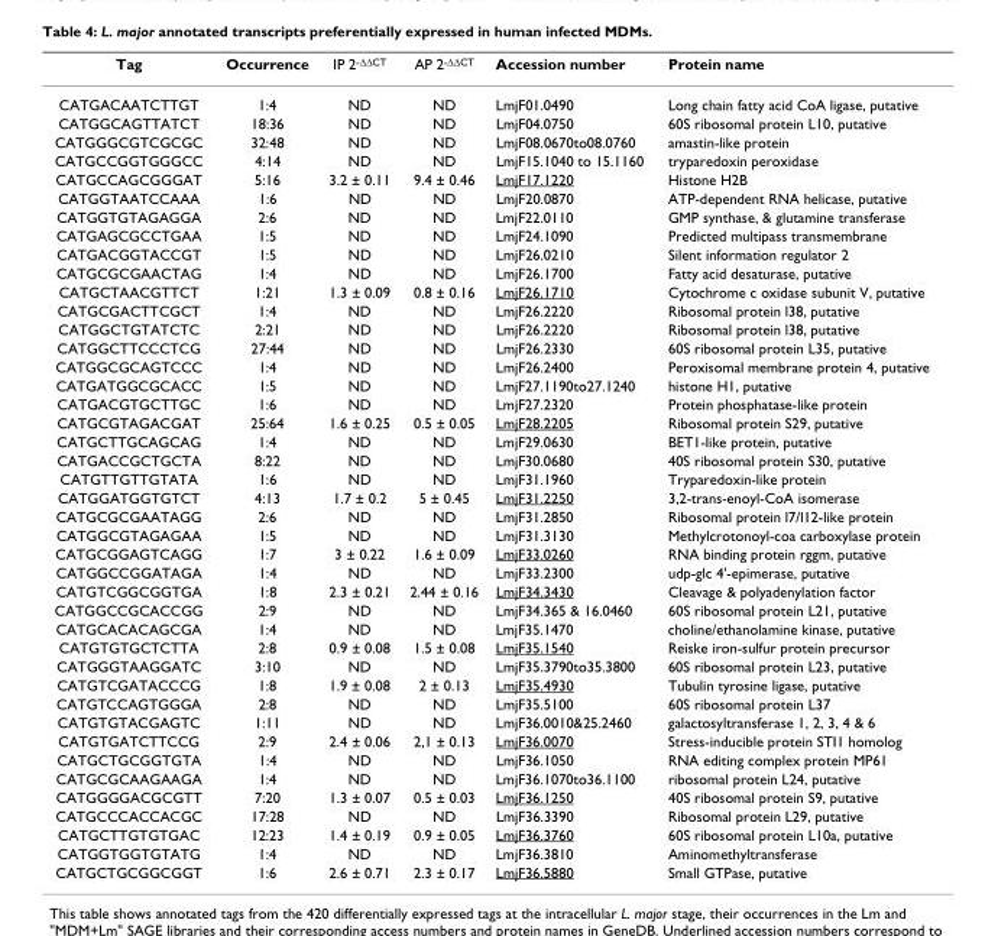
<table><thead><tr><td>Tag</td><td>Occurrence</td><td>IP 2<sup>-ΔΔCT</sup></td><td>AP 2<sup>-ΔΔCT</sup></td><td>Accession number</td><td>Protein name</td></tr></thead><tbody><tr><td>CATGACAATCTTGT</td><td>1:4</td><td>ND</td><td>ND</td><td>LmjF01.0490</td><td>Long chain fatty acid CoA ligase, putative</td></tr><tr><td>CATGGCAGTTATCT</td><td>18:36</td><td>ND</td><td>ND</td><td>LmjF04.0750</td><td>60S ribosomal protein L10, putative</td></tr><tr><td>CATGGGCGTCGCGC</td><td>32:48</td><td>ND</td><td>ND</td><td>LmjF08.0670to08.0760</td><td>amastin-like protein</td></tr><tr><td>CATGCCGGTGGGCC</td><td>4:14</td><td>ND</td><td>ND</td><td>LmjF15.1040 to 15.1160</td><td>tryparedoxin peroxidase</td></tr><tr><td>CATGCCAGCGGGAT</td><td>5:16</td><td>3.2 ± 0.11</td><td>9.4 ± 0.46</td><td>LmjF17.1220</td><td>Histone H2B</td></tr><tr><td>CATGGTAATCCAAA</td><td>1:6</td><td>ND</td><td>ND</td><td>LmjF20.0870</td><td>ATP-dependent RNA helicase, putative</td></tr><tr><td>CATGGTGTAGAGGA</td><td>2:6</td><td>ND</td><td>ND</td><td>LmjF22.0110</td><td>GMP synthase, &amp; glutamine transferase</td></tr><tr><td>CATGAGCGCCTGAA</td><td>1:5</td><td>ND</td><td>ND</td><td>LmjF24.1090</td><td>Predicted multipass transmembrane</td></tr><tr><td>CATGACGGTACCGT</td><td>1:5</td><td>ND</td><td>ND</td><td>LmjF26.0210</td><td>Silent information regulator 2</td></tr><tr><td>CATGCGCGAACTAG</td><td>1:4</td><td>ND</td><td>ND</td><td>LmjF26.1700</td><td>Fatty acid desaturase, putative</td></tr><tr><td>CATGCTAACGTTCT</td><td>1:21</td><td>1.3 ± 0.09</td><td>0.8 ± 0.16</td><td>LmjF26.1710</td><td>Cytochrome c oxidase subunit V, putative</td></tr><tr><td>CATGCGACTTCGCT</td><td>1:4</td><td>ND</td><td>ND</td><td>LmjF26.2220</td><td>Ribosomal protein l38, putative</td></tr><tr><td>CATGGCTGTATCTC</td><td>2:21</td><td>ND</td><td>ND</td><td>LmjF26.2220</td><td>Ribosomal protein l38, putative</td></tr><tr><td>CATGGCTTCCCTCG</td><td>27:44</td><td>ND</td><td>ND</td><td>LmjF26.2330</td><td>60S ribosomal protein L35, putative</td></tr><tr><td>CATGGCGCAGTCCC</td><td>1:4</td><td>ND</td><td>ND</td><td>LmjF26.2400</td><td>Peroxisomal membrane protein 4, putative</td></tr><tr><td>CATGATGGCGCACC</td><td>1:5</td><td>ND</td><td>ND</td><td>LmjF27.1190to27.1240</td><td>histone H1, putative</td></tr><tr><td>CATGACGTGCTTGC</td><td>1:6</td><td>ND</td><td>ND</td><td>LmjF27.2320</td><td>Protein phosphatase-like protein</td></tr><tr><td>CATGCGTAGACGAT</td><td>25:64</td><td>1.6 ± 0.25</td><td>0.5 ± 0.05</td><td>LmjF28.2205</td><td>Ribosomal protein S29, putative</td></tr><tr><td>CATGCTTGCAGCAG</td><td>1:4</td><td>ND</td><td>ND</td><td>LmjF29.0630</td><td>BET1-like protein, putative</td></tr><tr><td>CATGACCGCTGCTA</td><td>8:22</td><td>ND</td><td>ND</td><td>LmjF30.0680</td><td>40S ribosomal protein S30, putative</td></tr><tr><td>CATGTTGTTGTATA</td><td>1:6</td><td>ND</td><td>ND</td><td>LmjF31.1960</td><td>Tryparedoxin-like protein</td></tr><tr><td>CATGGATGGTGTCT</td><td>4:13</td><td>1.7 ± 0.2</td><td>5 ± 0.45</td><td>LmjF31.2250</td><td>3,2-trans-enoyl-CoA isomerase</td></tr><tr><td>CATGCGCGAATAGG</td><td>2:6</td><td>ND</td><td>ND</td><td>LmjF31.2850</td><td>Ribosomal protein l7/l12-like protein</td></tr><tr><td>CATGGCGTAGAGAA</td><td>1:5</td><td>ND</td><td>ND</td><td>LmjF31.3130</td><td>Methylcrotonoyl-coa carboxylase protein</td></tr><tr><td>CATGCGGAGTCAGG</td><td>1:7</td><td>3 ± 0.22</td><td>1.6 ± 0.09</td><td>LmjF33.0260</td><td>RNA binding protein rggm, putative</td></tr><tr><td>CATGGCCGGATAGA</td><td>1:4</td><td>ND</td><td>ND</td><td>LmjF33.2300</td><td>udp-glc 4&#x27;-epimerase, putative</td></tr><tr><td>CATGTCGGCGGTGA</td><td>1:8</td><td>2.3 ± 0.21</td><td>2.44 ± 0.16</td><td>LmjF34.3430</td><td>Cleavage &amp; polyadenylation factor</td></tr><tr><td>CATGGCCGCACCGG</td><td>2:9</td><td>ND</td><td>ND</td><td>LmjF34.365 &amp; 16.0460</td><td>60S ribosomal protein L21, putative</td></tr><tr><td>CATGCACACAGCGA</td><td>1:4</td><td>ND</td><td>ND</td><td>LmjF35.1470</td><td>choline/ethanolamine kinase, putative</td></tr><tr><td>CATGTGTGCTCTTA</td><td>2:8</td><td>0.9 ± 0.08</td><td>1.5 ± 0.08</td><td>LmjF35.1540</td><td>Reiske iron-sulfur protein precursor</td></tr><tr><td>CATGGGTAAGGATC</td><td>3:10</td><td>ND</td><td>ND</td><td>LmjF35.3790to35.3800</td><td>60S ribosomal protein L23, putative</td></tr><tr><td>CATGTCGATACCCG</td><td>1:8</td><td>1.9 ± 0.08</td><td>2 ± 0.13</td><td>LmjF35.4930</td><td>Tubulin tyrosine ligase, putative</td></tr><tr><td>CATGTCCAGTGGGA</td><td>2:8</td><td>ND</td><td>ND</td><td>LmjF35.5100</td><td>60S ribosomal protein L37</td></tr><tr><td>CATGTGTACGAGTC</td><td>1:11</td><td>ND</td><td>ND</td><td>LmjF36.0010&amp;25.2460</td><td>galactosyltransferase 1, 2, 3, 4 &amp; 6</td></tr><tr><td>CATGTGATCTTCCG</td><td>2:9</td><td>2.4 ± 0.06</td><td>2,1 ± 0.13</td><td>LmjF36.0070</td><td>Stress-inducible protein STI1 homolog</td></tr><tr><td>CATGCTGCGGTGTA</td><td>1:4</td><td>ND</td><td>ND</td><td>LmjF36.1050</td><td>RNA editing complex protein MP61</td></tr><tr><td>CATGCGCAAGAAGA</td><td>1:4</td><td>ND</td><td>ND</td><td>LmjF36.1070to36.1100</td><td>ribosomal protein L24, putative</td></tr><tr><td>CATGGGGACGCGTT</td><td>7:20</td><td>1.3 ± 0.07</td><td>0.5 ± 0.03</td><td>LmjF36.1250</td><td>40S ribosomal protein S9, putative</td></tr><tr><td>CATGCCCACCACGC</td><td>17:28</td><td>ND</td><td>ND</td><td>LmjF36.3390</td><td>Ribosomal protein L29, putative</td></tr><tr><td>CATGCTTGTGTGAC</td><td>12:23</td><td>1.4 ± 0.19</td><td>0.9 ± 0.05</td><td>LmjF36.3760</td><td>60S ribosomal protein L10a, putative</td></tr><tr><td>CATGGTGGTGTATG</td><td>1:4</td><td>ND</td><td>ND</td><td>LmjF36.3810</td><td>Aminomethyltransferase</td></tr><tr><td>CATGCTGCGGCGGT</td><td>1:6</td><td>2.6 ± 0.71</td><td>2.3 ± 0.17</td><td>LmjF36.5880</td><td>Small GTPase, putative</td></tr></tbody></table>